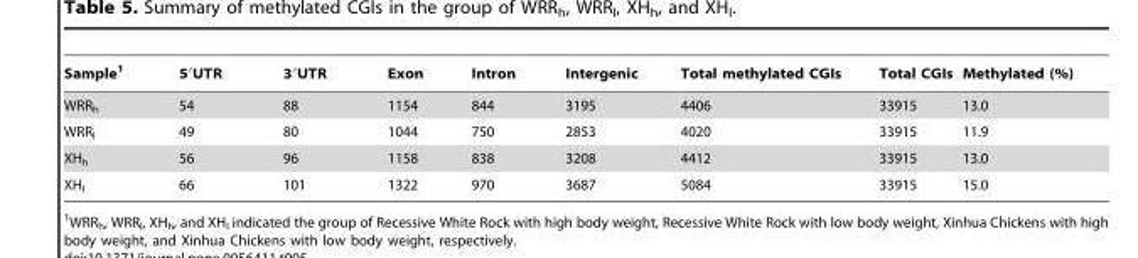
<table><thead><tr><td>Sample<sup>1</sup></td><td>5′UTR</td><td>3′UTR</td><td>Exon</td><td>Intron</td><td>Intergenic</td><td>Total methylated CGIs</td><td>Total CGIs</td><td>Methylated (%)</td></tr></thead><tbody><tr><td>WRR<sub>h</sub></td><td>54</td><td>88</td><td>1154</td><td>844</td><td>3195</td><td>4406</td><td>33915</td><td>13.0</td></tr><tr><td>WRR<sub>l</sub></td><td>49</td><td>80</td><td>1044</td><td>750</td><td>2853</td><td>4020</td><td>33915</td><td>11.9</td></tr><tr><td>XH<sub>h</sub></td><td>56</td><td>96</td><td>1158</td><td>838</td><td>3208</td><td>4412</td><td>33915</td><td>13.0</td></tr><tr><td>XH<sub>l</sub></td><td>66</td><td>101</td><td>1322</td><td>970</td><td>3687</td><td>5084</td><td>33915</td><td>15.0</td></tr></tbody></table>